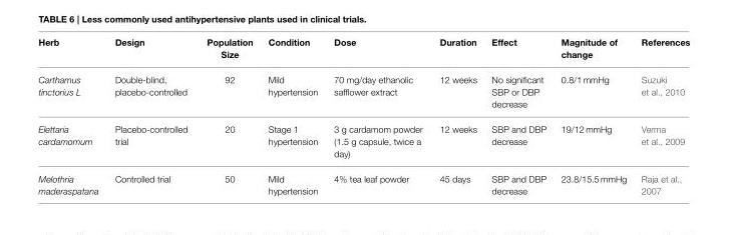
<table><thead><tr><td>Herb</td><td>Design</td><td>Population Size</td><td>Condition</td><td>Dose</td><td>Duration</td><td>Effect</td><td>Magnitude of change</td><td>References</td></tr></thead><tbody><tr><td>Carthamus tinctorius L</td><td>Double-blind, placebo-controlled</td><td>92</td><td>Mild hypertension</td><td>70 mg/day ethanolic safflower extract</td><td>12 weeks</td><td>No significant SBP or DBP decrease</td><td>0.8/1 mmHg</td><td>Suzuki et al., 2010</td></tr><tr><td>Elettaria cardamomum</td><td>Placebo-controlled trial</td><td>20</td><td>Stage 1 hypertension</td><td>3 g cardamom powder (1.5 g capsule, twice a day)</td><td>12 weeks</td><td>SBP and DBP decrease</td><td>19/12 mmHg</td><td>Verma et al., 2009</td></tr><tr><td>Melothria maderaspatana</td><td>Controlled trial</td><td>50</td><td>Mild hypertension</td><td>4% tea leaf powder</td><td>45 days</td><td>SBP and DBP decrease</td><td>23.8/15.5 mmHg</td><td>Raja et al., 2007</td></tr></tbody></table>